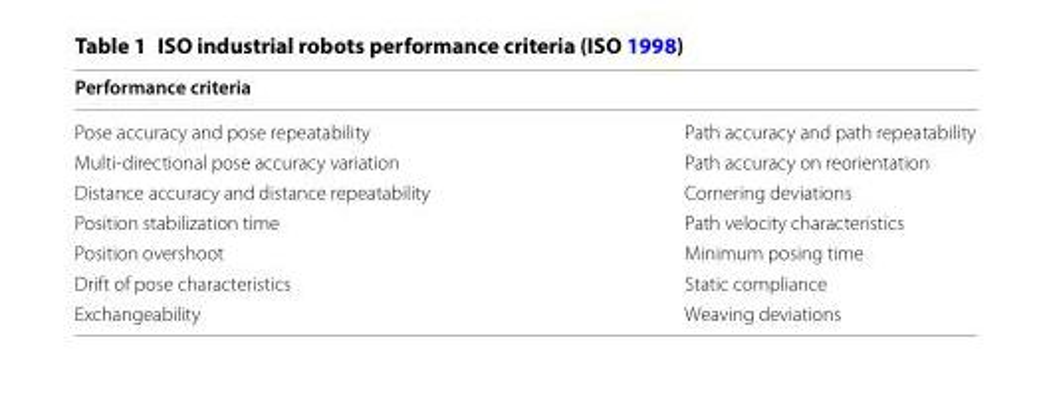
<table><thead><tr><td colspan="2">Performance criteria</td></tr><tr><td>Pose accuracy and pose repeatability</td><td>Path accuracy and path repeatability</td></tr></thead><tbody><tr><td>Multi‑directional pose accuracy variation</td><td>Path accuracy on reorientation</td></tr><tr><td>Distance accuracy and distance repeatability</td><td>Cornering deviations</td></tr><tr><td>Position stabilization time</td><td>Path velocity characteristics</td></tr><tr><td>Position overshoot</td><td>Minimum posing time</td></tr><tr><td>Drift of pose characteristics</td><td>Static compliance</td></tr><tr><td>Exchangeability</td><td>Weaving deviations</td></tr></tbody></table>